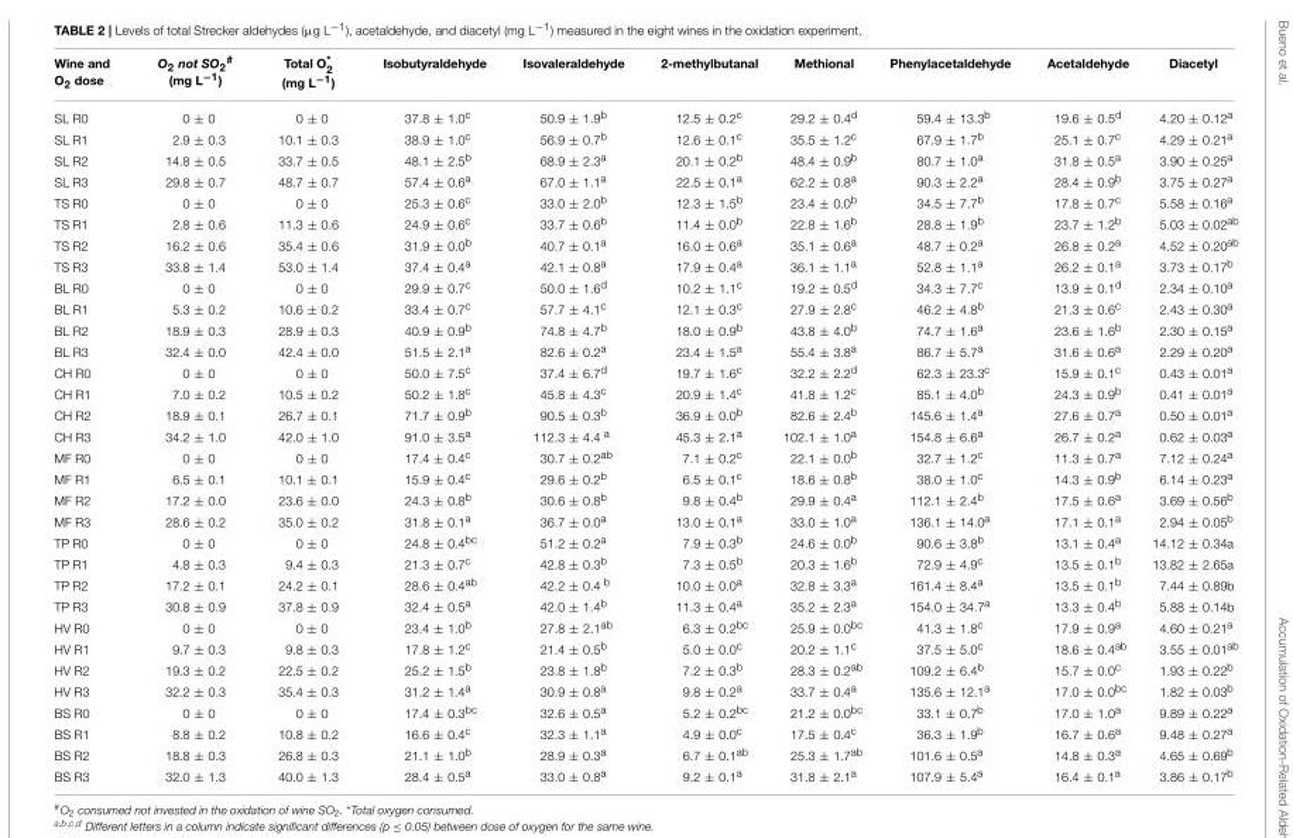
<table><thead><tr><td>Wine and O<sub>2</sub> dose</td><td>O<sub>2</sub> not SO<sub>2</sub><sup>#</sup> (mg L<sup>−1</sup>)</td><td>Total O* 2 (mg L−1)</td><td>Isobutyraldehyde</td><td>Isovaleraldehyde</td><td>2-methylbutanal</td><td>Methional</td><td>Phenylacetaldehyde</td><td>Acetaldehyde</td><td>Diacetyl</td></tr></thead><tbody><tr><td>SL R0</td><td>0 ± 0</td><td>0 ± 0</td><td>37.8 ± 1.0<sup>c</sup></td><td>50.9 ± 1.9<sup>b</sup></td><td>12.5 ± 0.2<sup>c</sup></td><td>29.2 ± 0.4<sup>d</sup></td><td>59.4 ± 13.3<sup>b</sup></td><td>19.6 ± 0.5<sup>d</sup></td><td>4.20 ± 0.12<sup>a</sup></td></tr><tr><td>SL R1</td><td>2.9 ± 0.3</td><td>10.1 ± 0.3</td><td>38.9 ± 1.0<sup>c</sup></td><td>56.9 ± 0.7<sup>b</sup></td><td>12.6 ± 0.1<sup>c</sup></td><td>35.5 ± 1.2<sup>c</sup></td><td>67.9 ± 1.7<sup>b</sup></td><td>25.1 ± 0.7<sup>c</sup></td><td>4.29 ± 0.21<sup>a</sup></td></tr><tr><td>SL R2</td><td>14.8 ± 0.5</td><td>33.7 ± 0.5</td><td>48.1 ± 2.5<sup>b</sup></td><td>68.9 ± 2.3<sup>a</sup></td><td>20.1 ± 0.2<sup>b</sup></td><td>48.4 ± 0.9<sup>b</sup></td><td>80.7 ± 1.0<sup>a</sup></td><td>31.8 ± 0.5<sup>a</sup></td><td>3.90 ± 0.25<sup>a</sup></td></tr><tr><td>SL R3</td><td>29.8 ± 0.7</td><td>48.7 ± 0.7</td><td>57.4 ± 0.6<sup>a</sup></td><td>67.0 ± 1.1<sup>a</sup></td><td>22.5 ± 0.1<sup>a</sup></td><td>62.2 ± 0.8<sup>a</sup></td><td>90.3 ± 2.2<sup>a</sup></td><td>28.4 ± 0.9<sup>b</sup></td><td>3.75 ± 0.27<sup>a</sup></td></tr><tr><td>TS R0</td><td>0 ± 0</td><td>0 ± 0</td><td>25.3 ± 0.6<sup>c</sup></td><td>33.0 ± 2.0<sup>b</sup></td><td>12.3 ± 1.5<sup>b</sup></td><td>23.4 ± 0.0<sup>b</sup></td><td>34.5 ± 7.7<sup>b</sup></td><td>17.8 ± 0.7<sup>c</sup></td><td>5.58 ± 0.16<sup>a</sup></td></tr><tr><td>TS R1</td><td>2.8 ± 0.6</td><td>11.3 ± 0.6</td><td>24.9 ± 0.6<sup>c</sup></td><td>33.7 ± 0.6<sup>b</sup></td><td>11.4 ± 0.0<sup>b</sup></td><td>22.8 ± 1.6<sup>b</sup></td><td>28.8 ± 1.9<sup>b</sup></td><td>23.7 ± 1.2<sup>b</sup></td><td>5.03 ± 0.02<sup>ab</sup></td></tr><tr><td>TS R2</td><td>16.2 ± 0.6</td><td>35.4 ± 0.6</td><td>31.9 ± 0.0<sup>b</sup></td><td>40.7 ± 0.1<sup>a</sup></td><td>16.0 ± 0.6<sup>a</sup></td><td>35.1 ± 0.6<sup>a</sup></td><td>48.7 ± 0.2<sup>a</sup></td><td>26.8 ± 0.2<sup>a</sup></td><td>4.52 ± 0.20<sup>ab</sup></td></tr><tr><td>TS R3</td><td>33.8 ± 1.4</td><td>53.0 ± 1.4</td><td>37.4 ± 0.4<sup>a</sup></td><td>42.1 ± 0.8<sup>a</sup></td><td>17.9 ± 0.4<sup>a</sup></td><td>36.1 ± 1.1<sup>a</sup></td><td>52.8 ± 1.1<sup>a</sup></td><td>26.2 ± 0.1<sup>a</sup></td><td>3.73 ± 0.17<sup>b</sup></td></tr><tr><td>BL R0</td><td>0 ± 0</td><td>0 ± 0</td><td>29.9 ± 0.7<sup>c</sup></td><td>50.0 ± 1.6<sup>d</sup></td><td>10.2 ± 1.1<sup>c</sup></td><td>19.2 ± 0.5<sup>d</sup></td><td>34.3 ± 7.7<sup>c</sup></td><td>13.9 ± 0.1<sup>d</sup></td><td>2.34 ± 0.10<sup>a</sup></td></tr><tr><td>BL R1</td><td>5.3 ± 0.2</td><td>10.6 ± 0.2</td><td>33.4 ± 0.7<sup>c</sup></td><td>57.7 ± 4.1<sup>c</sup></td><td>12.1 ± 0.3<sup>c</sup></td><td>27.9 ± 2.8<sup>c</sup></td><td>46.2 ± 4.8<sup>b</sup></td><td>21.3 ± 0.6<sup>c</sup></td><td>2.43 ± 0.30<sup>a</sup></td></tr><tr><td>BL R2</td><td>18.9 ± 0.3</td><td>28.9 ± 0.3</td><td>40.9 ± 0.9<sup>b</sup></td><td>74.8 ± 4.7<sup>b</sup></td><td>18.0 ± 0.9<sup>b</sup></td><td>43.8 ± 4.0<sup>b</sup></td><td>74.7 ± 1.6<sup>a</sup></td><td>23.6 ± 1.6<sup>b</sup></td><td>2.30 ± 0.15<sup>a</sup></td></tr><tr><td>BL R3</td><td>32.4 ± 0.0</td><td>42.4 ± 0.0</td><td>51.5 ± 2.1<sup>a</sup></td><td>82.6 ± 0.2<sup>a</sup></td><td>23.4 ± 1.5<sup>a</sup></td><td>55.4 ± 3.8<sup>a</sup></td><td>86.7 ± 5.7<sup>a</sup></td><td>31.6 ± 0.6<sup>a</sup></td><td>2.29 ± 0.20<sup>a</sup></td></tr><tr><td>CH R0</td><td>0 ± 0</td><td>0 ± 0</td><td>50.0 ± 7.5<sup>c</sup></td><td>37.4 ± 6.7<sup>d</sup></td><td>19.7 ± 1.6<sup>c</sup></td><td>32.2 ± 2.2<sup>d</sup></td><td>62.3 ± 23.3<sup>c</sup></td><td>15.9 ± 0.1<sup>c</sup></td><td>0.43 ± 0.01<sup>a</sup></td></tr><tr><td>CH R1</td><td>7.0 ± 0.2</td><td>10.5 ± 0.2</td><td>50.2 ± 1.8<sup>c</sup></td><td>45.8 ± 4.3<sup>c</sup></td><td>20.9 ± 1.4<sup>c</sup></td><td>41.8 ± 1.2<sup>c</sup></td><td>85.1 ± 4.0<sup>b</sup></td><td>24.3 ± 0.9<sup>b</sup></td><td>0.41 ± 0.01<sup>a</sup></td></tr><tr><td>CH R2</td><td>18.9 ± 0.1</td><td>26.7 ± 0.1</td><td>71.7 ± 0.9<sup>b</sup></td><td>90.5 ± 0.3<sup>b</sup></td><td>36.9 ± 0.0<sup>b</sup></td><td>82.6 ± 2.4<sup>b</sup></td><td>145.6 ± 1.4<sup>a</sup></td><td>27.6 ± 0.7<sup>a</sup></td><td>0.50 ± 0.01<sup>a</sup></td></tr><tr><td>CH R3</td><td>34.2 ± 1.0</td><td>42.0 ± 1.0</td><td>91.0 ± 3.5<sup>a</sup></td><td>112.3 ± 4.4 <sup>a</sup></td><td>45.3 ± 2.1<sup>a</sup></td><td>102.1 ± 1.0<sup>a</sup></td><td>154.8 ± 6.6<sup>a</sup></td><td>26.7 ± 0.2<sup>a</sup></td><td>0.62 ± 0.03<sup>a</sup></td></tr><tr><td>MF R0</td><td>0 ± 0</td><td>0 ± 0</td><td>17.4 ± 0.4<sup>c</sup></td><td>30.7 ± 0.2<sup>ab</sup></td><td>7.1 ± 0.2<sup>c</sup></td><td>22.1 ± 0.0<sup>b</sup></td><td>32.7 ± 1.2<sup>c</sup></td><td>11.3 ± 0.7<sup>a</sup></td><td>7.12 ± 0.24<sup>a</sup></td></tr><tr><td>MF R1</td><td>6.5 ± 0.1</td><td>10.1 ± 0.1</td><td>15.9 ± 0.4<sup>c</sup></td><td>29.6 ± 0.2<sup>b</sup></td><td>6.5 ± 0.1<sup>c</sup></td><td>18.6 ± 0.8<sup>b</sup></td><td>38.0 ± 1.0<sup>c</sup></td><td>14.3 ± 0.9<sup>b</sup></td><td>6.14 ± 0.23<sup>a</sup></td></tr><tr><td>MF R2</td><td>17.2 ± 0.0</td><td>23.6 ± 0.0</td><td>24.3 ± 0.8<sup>b</sup></td><td>30.6 ± 0.8<sup>b</sup></td><td>9.8 ± 0.4<sup>b</sup></td><td>29.9 ± 0.4<sup>a</sup></td><td>112.1 ± 2.4<sup>b</sup></td><td>17.5 ± 0.6<sup>a</sup></td><td>3.69 ± 0.56<sup>b</sup></td></tr><tr><td>MF R3</td><td>28.6 ± 0.2</td><td>35.0 ± 0.2</td><td>31.8 ± 0.1<sup>a</sup></td><td>36.7 ± 0.0<sup>a</sup></td><td>13.0 ± 0.1<sup>a</sup></td><td>33.0 ± 1.0<sup>a</sup></td><td>136.1 ± 14.0<sup>a</sup></td><td>17.1 ± 0.1<sup>a</sup></td><td>2.94 ± 0.05<sup>b</sup></td></tr><tr><td>TP R0</td><td>0 ± 0</td><td>0 ± 0</td><td>24.8 ± 0.4<sup>bc</sup></td><td>51.2 ± 0.2<sup>a</sup></td><td>7.9 ± 0.3<sup>b</sup></td><td>24.6 ± 0.0<sup>b</sup></td><td>90.6 ± 3.8<sup>b</sup></td><td>13.1 ± 0.4<sup>a</sup></td><td>14.12 ± 0.34a</td></tr><tr><td>TP R1</td><td>4.8 ± 0.3</td><td>9.4 ± 0.3</td><td>21.3 ± 0.7<sup>c</sup></td><td>42.8 ± 0.3<sup>b</sup></td><td>7.3 ± 0.5<sup>b</sup></td><td>20.3 ± 1.6<sup>b</sup></td><td>72.9 ± 4.9<sup>c</sup></td><td>13.5 ± 0.1<sup>b</sup></td><td>13.82 ± 2.65a</td></tr><tr><td>TP R2</td><td>17.2 ± 0.1</td><td>24.2 ± 0.1</td><td>28.6 ± 0.4<sup>ab</sup></td><td>42.2 ± 0.4 <sup>b</sup></td><td>10.0 ± 0.0<sup>a</sup></td><td>32.8 ± 3.3<sup>a</sup></td><td>161.4 ± 8.4<sup>a</sup></td><td>13.5 ± 0.1<sup>b</sup></td><td>7.44 ± 0.89b</td></tr><tr><td>TP R3</td><td>30.8 ± 0.9</td><td>37.8 ± 0.9</td><td>32.4 ± 0.5<sup>a</sup></td><td>42.0 ± 1.4<sup>b</sup></td><td>11.3 ± 0.4<sup>a</sup></td><td>35.2 ± 2.3<sup>a</sup></td><td>154.0 ± 34.7<sup>a</sup></td><td>13.3 ± 0.4<sup>b</sup></td><td>5.88 ± 0.14b</td></tr><tr><td>HV R0</td><td>0 ± 0</td><td>0 ± 0</td><td>23.4 ± 1.0<sup>b</sup></td><td>27.8 ± 2.1<sup>ab</sup></td><td>6.3 ± 0.2<sup>bc</sup></td><td>25.9 ± 0.0<sup>bc</sup></td><td>41.3 ± 1.8<sup>c</sup></td><td>17.9 ± 0.9<sup>a</sup></td><td>4.60 ± 0.21<sup>a</sup></td></tr><tr><td>HV R1</td><td>9.7 ± 0.3</td><td>9.8 ± 0.3</td><td>17.8 ± 1.2<sup>c</sup></td><td>21.4 ± 0.5<sup>b</sup></td><td>5.0 ± 0.0<sup>c</sup></td><td>20.2 ± 1.1<sup>c</sup></td><td>37.5 ± 5.0<sup>c</sup></td><td>18.6 ± 0.4<sup>ab</sup></td><td>3.55 ± 0.01<sup>ab</sup></td></tr><tr><td>HV R2</td><td>19.3 ± 0.2</td><td>22.5 ± 0.2</td><td>25.2 ± 1.5<sup>b</sup></td><td>23.8 ± 1.8<sup>b</sup></td><td>7.2 ± 0.3<sup>b</sup></td><td>28.3 ± 0.2<sup>ab</sup></td><td>109.2 ± 6.4<sup>b</sup></td><td>15.7 ± 0.0<sup>c</sup></td><td>1.93 ± 0.22<sup>b</sup></td></tr><tr><td>HV R3</td><td>32.2 ± 0.3</td><td>35.4 ± 0.3</td><td>31.2 ± 1.4<sup>a</sup></td><td>30.9 ± 0.8<sup>a</sup></td><td>9.8 ± 0.2<sup>a</sup></td><td>33.7 ± 0.4<sup>a</sup></td><td>135.6 ± 12.1<sup>a</sup></td><td>17.0 ± 0.0<sup>bc</sup></td><td>1.82 ± 0.03<sup>b</sup></td></tr><tr><td>BS R0</td><td>0 ± 0</td><td>0 ± 0</td><td>17.4 ± 0.3<sup>bc</sup></td><td>32.6 ± 0.5<sup>a</sup></td><td>5.2 ± 0.2<sup>bc</sup></td><td>21.2 ± 0.0<sup>bc</sup></td><td>33.1 ± 0.7<sup>b</sup></td><td>17.0 ± 1.0<sup>a</sup></td><td>9.89 ± 0.22<sup>a</sup></td></tr><tr><td>BS R1</td><td>8.8 ± 0.2</td><td>10.8 ± 0.2</td><td>16.6 ± 0.4<sup>c</sup></td><td>32.3 ± 1.1<sup>a</sup></td><td>4.9 ± 0.0<sup>c</sup></td><td>17.5 ± 0.4<sup>c</sup></td><td>36.3 ± 1.9<sup>b</sup></td><td>16.7 ± 0.6<sup>a</sup></td><td>9.48 ± 0.27<sup>a</sup></td></tr><tr><td>BS R2</td><td>18.8 ± 0.3</td><td>26.8 ± 0.3</td><td>21.1 ± 1.0<sup>b</sup></td><td>28.9 ± 0.3<sup>a</sup></td><td>6.7 ± 0.1<sup>ab</sup></td><td>25.3 ± 1.7<sup>ab</sup></td><td>101.6 ± 0.5<sup>a</sup></td><td>14.8 ± 0.3<sup>a</sup></td><td>4.65 ± 0.69<sup>b</sup></td></tr><tr><td>BS R3</td><td>32.0 ± 1.3</td><td>40.0 ± 1.3</td><td>28.4 ± 0.5<sup>a</sup></td><td>33.0 ± 0.8<sup>a</sup></td><td>9.2 ± 0.1<sup>a</sup></td><td>31.8 ± 2.1<sup>a</sup></td><td>107.9 ± 5.4<sup>a</sup></td><td>16.4 ± 0.1<sup>a</sup></td><td>3.86 ± 0.17<sup>b</sup></td></tr></tbody></table>